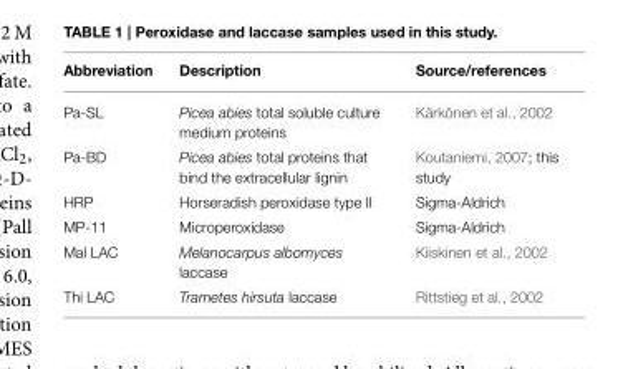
<table><thead><tr><td>Abbreviation</td><td>Description</td><td>Source/references</td></tr></thead><tbody><tr><td>Pa-SL</td><td>Picea abies total soluble culture medium proteins</td><td>Kärkönen et al., 2002</td></tr><tr><td>Pa-BD</td><td>Picea abies total proteins that bind the extracellular lignin</td><td>Koutaniemi, 2007; this study</td></tr><tr><td>HRP</td><td>Horseradish peroxidase type II</td><td>Sigma-Aldrich</td></tr><tr><td>MP-11</td><td>Microperoxidase</td><td>Sigma-Aldrich</td></tr><tr><td>Mal LAC</td><td>Melanocarpus albomyces laccase</td><td>Kiiskinen et al., 2002</td></tr><tr><td>Thi LAC</td><td>Trametes hirsuta laccase</td><td>Rittstieg et al., 2002</td></tr></tbody></table>